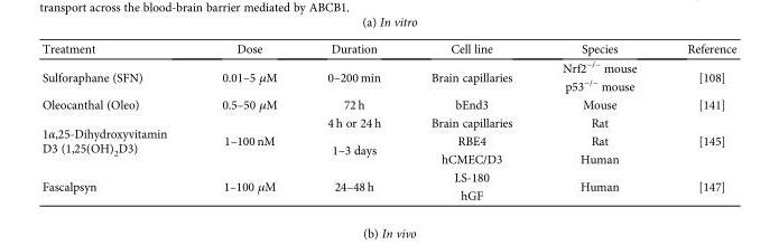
<table><thead><tr><td>Treatment</td><td>Dose</td><td>Duration</td><td>Cell line</td><td>Species</td><td>Reference</td></tr></thead><tbody><tr><td rowspan="2">Sulforaphane (SFN)</td><td rowspan="2">0.01–5 μM</td><td rowspan="2">0–200 min</td><td rowspan="2">Brain capillaries</td><td>Nrf2<sup>−/−</sup> mouse</td><td rowspan="2">[108]</td></tr><tr><td>p53<sup>−/−</sup> mouse</td></tr><tr><td>Oleocanthal (Oleo)</td><td>0.5–50 μM</td><td>72 h</td><td>bEnd3</td><td>Mouse</td><td>[141]</td></tr><tr><td rowspan="3">1α,25-Dihydroxyvitamin D3 (1,25(OH)<sub>2</sub>D3)</td><td rowspan="3">1–100 nM</td><td>4 h or 24 h</td><td>Brain capillaries</td><td>Rat</td><td rowspan="3">[145]</td></tr><tr><td rowspan="2">1–3 days</td><td>RBE4</td><td>Rat</td></tr><tr><td>hCMEC/D3</td><td>Human</td></tr><tr><td rowspan="2">Fascalpsyn</td><td rowspan="2">1–100 μM</td><td rowspan="2">24–48 h</td><td>LS-180</td><td rowspan="2">Human</td><td rowspan="2">[147]</td></tr><tr><td>hGF</td></tr></tbody></table>